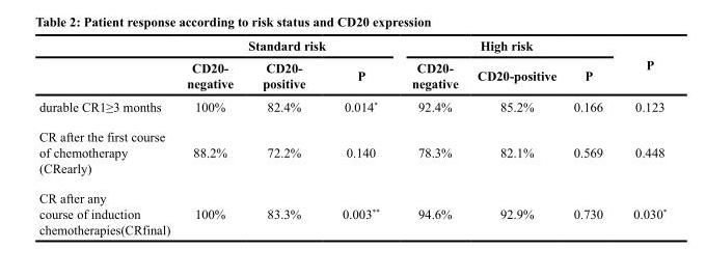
<table><thead><tr><td rowspan="2"></td><td colspan="3">Standard risk</td><td colspan="3">High risk</td><td rowspan="2">P</td></tr><tr><td>CD20- negative</td><td>CD20- positive</td><td>P</td><td>CD20- negative</td><td>CD20-positive</td><td>P</td></tr></thead><tbody><tr><td>durable CR1≥3 months</td><td>100%</td><td>82.4%</td><td>0.014*</td><td>92.4%</td><td>85.2%</td><td>0.166</td><td>0.123</td></tr><tr><td>CR after the first course of chemotherapy (CRearly)</td><td>88.2%</td><td>72.2%</td><td>0.140</td><td>78.3%</td><td>82.1%</td><td>0.569</td><td>0.448</td></tr><tr><td>CR after any course of induction chemotherapies(CRfinal)</td><td>100%</td><td>83.3%</td><td>0.003**</td><td>94.6%</td><td>92.9%</td><td>0.730</td><td>0.030*</td></tr></tbody></table>